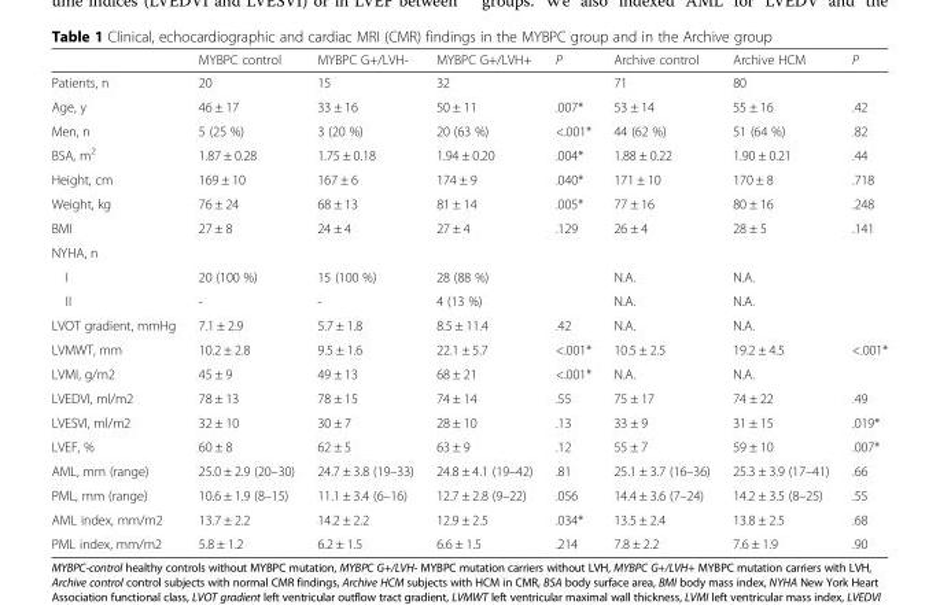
<table><thead><tr><td></td><td>MYBPC control</td><td>MYBPC G+/LVH-</td><td>MYBPC G+/LVH+</td><td>P</td><td>Archive control</td><td>Archive HCM</td><td>P</td></tr></thead><tbody><tr><td>Patients, n</td><td>20</td><td>15</td><td>32</td><td></td><td>71</td><td>80</td><td></td></tr><tr><td>Age, y</td><td>46 ± 17</td><td>33 ± 16</td><td>50 ± 11</td><td>.007*</td><td>53 ± 14</td><td>55 ± 16</td><td>.42</td></tr><tr><td>Men, n</td><td>5 (25 %)</td><td>3 (20 %)</td><td>20 (63 %)</td><td>&lt;.001*</td><td>44 (62 %)</td><td>51 (64 %)</td><td>.82</td></tr><tr><td>BSA, m<sup>2</sup></td><td>1.87 ± 0.28</td><td>1.75 ± 0.18</td><td>1.94 ± 0.20</td><td>.004*</td><td>1.88 ± 0.22</td><td>1.90 ± 0.21</td><td>.44</td></tr><tr><td>Height, cm</td><td>169 ± 10</td><td>167 ± 6</td><td>174 ± 9</td><td>.040*</td><td>171 ± 10</td><td>170 ± 8</td><td>.718</td></tr><tr><td>Weight, kg</td><td>76 ± 24</td><td>68 ± 13</td><td>81 ± 14</td><td>.005*</td><td>77 ± 16</td><td>80 ± 16</td><td>.248</td></tr><tr><td>BMI</td><td>27 ± 8</td><td>24 ± 4</td><td>27 ± 4</td><td>.129</td><td>26 ± 4</td><td>28 ± 5</td><td>.141</td></tr><tr><td colspan="8">NYHA, n</td></tr><tr><td>I</td><td>20 (100 %)</td><td>15 (100 %)</td><td>28 (88 %)</td><td></td><td>N.A.</td><td>N.A.</td><td></td></tr><tr><td>II</td><td>-</td><td>-</td><td>4 (13 %)</td><td></td><td>N.A.</td><td>N.A.</td><td></td></tr><tr><td>LVOT gradient, mmHg</td><td>7.1 ± 2.9</td><td>5.7 ± 1.8</td><td>8.5 ± 11.4</td><td>.42</td><td>N.A.</td><td>N.A.</td><td></td></tr><tr><td>LVMWT, mm</td><td>10.2 ± 2.8</td><td>9.5 ± 1.6</td><td>22.1 ± 5.7</td><td>&lt;.001*</td><td>10.5 ± 2.5</td><td>19.2 ± 4.5</td><td>&lt;.001*</td></tr><tr><td>LVMI, g/m2</td><td>45 ± 9</td><td>49 ± 13</td><td>68 ± 21</td><td>&lt;.001*</td><td>N.A.</td><td>N.A.</td><td></td></tr><tr><td>LVEDVI, ml/m2</td><td>78 ± 13</td><td>78 ± 15</td><td>74 ± 14</td><td>.55</td><td>75 ± 17</td><td>74 ± 22</td><td>.49</td></tr><tr><td>LVESVI, ml/m2</td><td>32 ± 10</td><td>30 ± 7</td><td>28 ± 10</td><td>.13</td><td>33 ± 9</td><td>31 ± 15</td><td>.019*</td></tr><tr><td>LVEF, %</td><td>60 ± 8</td><td>62 ± 5</td><td>63 ± 9</td><td>.12</td><td>55 ± 7</td><td>59 ± 10</td><td>.007*</td></tr><tr><td>AML, mm (range)</td><td>25.0 ± 2.9 (20–30)</td><td>24.7 ± 3.8 (19–33)</td><td>24.8 ± 4.1 (19–42)</td><td>.81</td><td>25.1 ± 3.7 (16–36)</td><td>25.3 ± 3.9 (17–41)</td><td>.66</td></tr><tr><td>PML, mm (range)</td><td>10.6 ± 1.9 (8–15)</td><td>11.1 ± 3.4 (6–16)</td><td>12.7 ± 2.8 (9–22)</td><td>.056</td><td>14.4 ± 3.6 (7–24)</td><td>14.2 ± 3.5 (8–25)</td><td>.55</td></tr><tr><td>AML index, mm/m2</td><td>13.7 ± 2.2</td><td>14.2 ± 2.2</td><td>12.9 ± 2.5</td><td>.034*</td><td>13.5 ± 2.4</td><td>13.8 ± 2.5</td><td>.68</td></tr><tr><td>PML index, mm/m2</td><td>5.8 ± 1.2</td><td>6.2 ± 1.5</td><td>6.6 ± 1.5</td><td>.214</td><td>7.8 ± 2.2</td><td>7.6 ± 1.9</td><td>.90</td></tr></tbody></table>